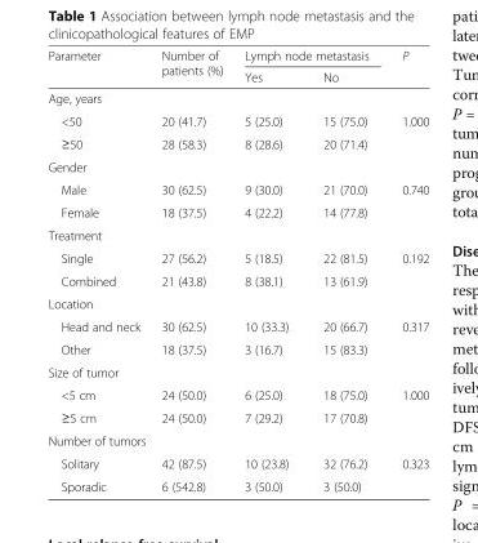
<table><thead><tr><td rowspan="2">Parameter</td><td rowspan="2">Number of patients (%)</td><td colspan="2">Lymph node metastasis</td><td rowspan="2">P</td></tr><tr><td>Yes</td><td>No</td></tr></thead><tbody><tr><td colspan="5">Age, years</td></tr><tr><td>&lt;50</td><td>20 (41.7)</td><td>5 (25.0)</td><td>15 (75.0)</td><td>1.000</td></tr><tr><td>≥50</td><td>28 (58.3)</td><td>8 (28.6)</td><td>20 (71.4)</td><td></td></tr><tr><td colspan="5">Gender</td></tr><tr><td>Male</td><td>30 (62.5)</td><td>9 (30.0)</td><td>21 (70.0)</td><td>0.740</td></tr><tr><td>Female</td><td>18 (37.5)</td><td>4 (22.2)</td><td>14 (77.8)</td><td></td></tr><tr><td colspan="5">Treatment</td></tr><tr><td>Single</td><td>27 (56.2)</td><td>5 (18.5)</td><td>22 (81.5)</td><td>0.192</td></tr><tr><td>Combined</td><td>21 (43.8)</td><td>8 (38.1)</td><td>13 (61.9)</td><td></td></tr><tr><td colspan="5">Location</td></tr><tr><td>Head and neck</td><td>30 (62.5)</td><td>10 (33.3)</td><td>20 (66.7)</td><td>0.317</td></tr><tr><td>Other</td><td>18 (37.5)</td><td>3 (16.7)</td><td>15 (83.3)</td><td></td></tr><tr><td colspan="5">Size of tumor</td></tr><tr><td>&lt;5 cm</td><td>24 (50.0)</td><td>6 (25.0)</td><td>18 (75.0)</td><td>1.000</td></tr><tr><td>≥5 cm</td><td>24 (50.0)</td><td>7 (29.2)</td><td>17 (70.8)</td><td></td></tr><tr><td colspan="5">Number of tumors</td></tr><tr><td>Solitary</td><td>42 (87.5)</td><td>10 (23.8)</td><td>32 (76.2)</td><td>0.323</td></tr><tr><td>Sporadic</td><td>6 (542.8)</td><td>3 (50.0)</td><td>3 (50.0)</td><td></td></tr></tbody></table>